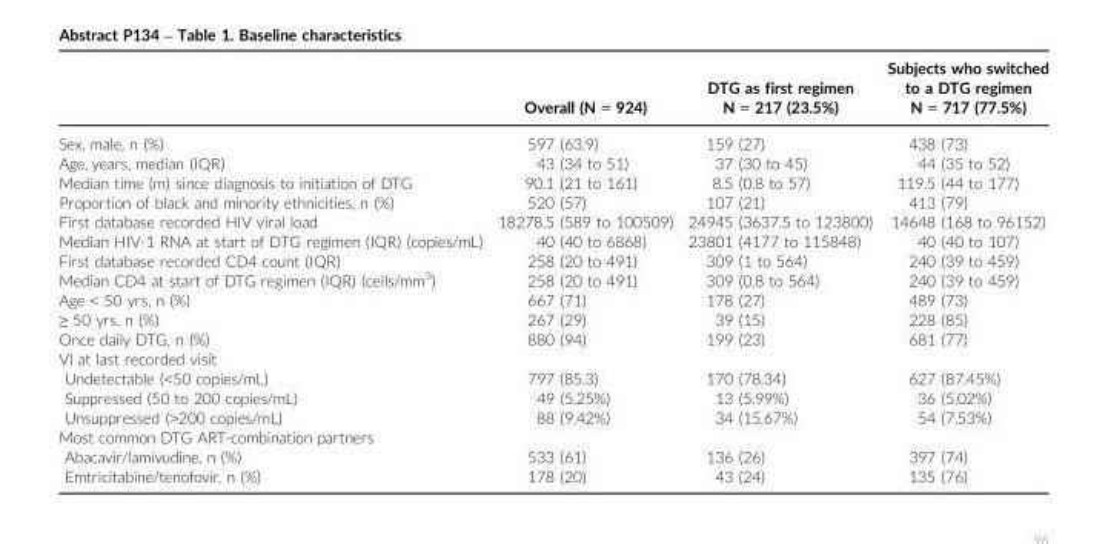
<table><thead><tr><td></td><td>Overall (N = 924)</td><td>DTG as first regimen N = 217 (23.5%)</td><td>Subjects who switched to a DTG regimen N = 717 (77.5%)</td></tr></thead><tbody><tr><td>Sex, male, n (%)</td><td>597 (63.9)</td><td>159 (27)</td><td>438 (73)</td></tr><tr><td>Age, years, median (IQR)</td><td>43 (34 to 51)</td><td>37 (30 to 45)</td><td>44 (35 to 52)</td></tr><tr><td>Median time (m) since diagnosis to initiation of DTG</td><td>90.1 (21 to 161)</td><td>8.5 (0.8 to 57)</td><td>119.5 (44 to 177)</td></tr><tr><td>Proportion of black and minority ethnicities, n (%)</td><td>520 (57)</td><td>107 (21)</td><td>413 (79)</td></tr><tr><td>First database recorded HIV viral load</td><td>18278.5 (589 to 100509)</td><td>24945 (3637.5 to 123800)</td><td>14648 (168 to 96152)</td></tr><tr><td>Median HIV-1 RNA at start of DTG regimen (IQR) (copies/mL)</td><td>40 (40 to 6868)</td><td>23801 (4177 to 115848)</td><td>40 (40 to 107)</td></tr><tr><td>First database recorded CD4 count (IQR)</td><td>258 (20 to 491)</td><td>309 (1 to 564)</td><td>240 (39 to 459)</td></tr><tr><td>Median CD4 at start of DTG regimen (IQR) (cells/mm<sup>3</sup>)</td><td>258 (20 to 491)</td><td>309 (0.8 to 564)</td><td>240 (39 to 459)</td></tr><tr><td>Age &lt; 50 yrs, n (%)</td><td>667 (71)</td><td>178 (27)</td><td>489 (73)</td></tr><tr><td>≥ 50 yrs, n (%)</td><td>267 (29)</td><td>39 (15)</td><td>228 (85)</td></tr><tr><td>Once daily DTG, n (%)</td><td>880 (94)</td><td>199 (23)</td><td>681 (77)</td></tr><tr><td colspan="4">Vl at last recorded visit</td></tr><tr><td>Undetectable (&lt;50 copies/mL)</td><td>797 (85.3)</td><td>170 (78.34)</td><td>627 (87.45%)</td></tr><tr><td>Suppressed (50 to 200 copies/mL)</td><td>49 (5.25%)</td><td>13 (5.99%)</td><td>36 (5.02%)</td></tr><tr><td>Unsuppressed (&gt;200 copies/mL)</td><td>88 (9.42%)</td><td>34 (15.67%)</td><td>54 (7.53%)</td></tr><tr><td colspan="4">Most common DTG ART-combination partners</td></tr><tr><td>Abacavir/lamivudine, n (%)</td><td>533 (61)</td><td>136 (26)</td><td>397 (74)</td></tr><tr><td>Emtricitabine/tenofovir, n (%)</td><td>178 (20)</td><td>43 (24)</td><td>135 (76)</td></tr></tbody></table>